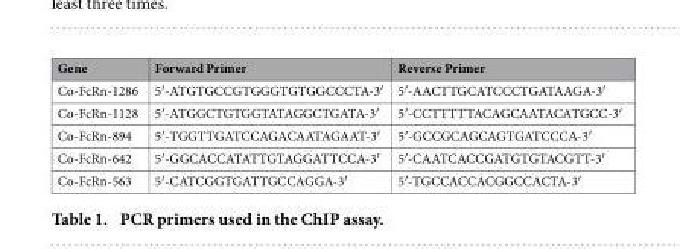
<table><thead><tr><td>Gene</td><td>Forward Primer</td><td>Reverse Primer</td></tr></thead><tbody><tr><td>Co-FcRn-1286</td><td>5′ -ATGTGCCGTGGGTGTGGCCCTA-3′</td><td>5′ -AACTTGCATCCCTGATAAGA-3′</td></tr><tr><td>Co-FcRn-1128</td><td>5′ -ATGGCTGTGGTATAGGCTGATA-3′</td><td>5′ -CCTTTTTACAGCAATACATGCC-3′</td></tr><tr><td>Co-FcRn-894</td><td>5′ -TGGTTGATCCAGACAATAGAAT-3′</td><td>5′ -GCCGCAGCAGTGATCCCA-3′</td></tr><tr><td>Co-FcRn-642</td><td>5′ -GGCACCATATTGTAGGATTCCA-3′</td><td>5′ -CAATCACCGATGTGTACGTT-3′</td></tr><tr><td>Co-FcRn-563</td><td>5′ -CATCGGTGATTGCCAGGA-3′</td><td>5′ -TGCCACCACGGCCACTA-3′</td></tr></tbody></table>